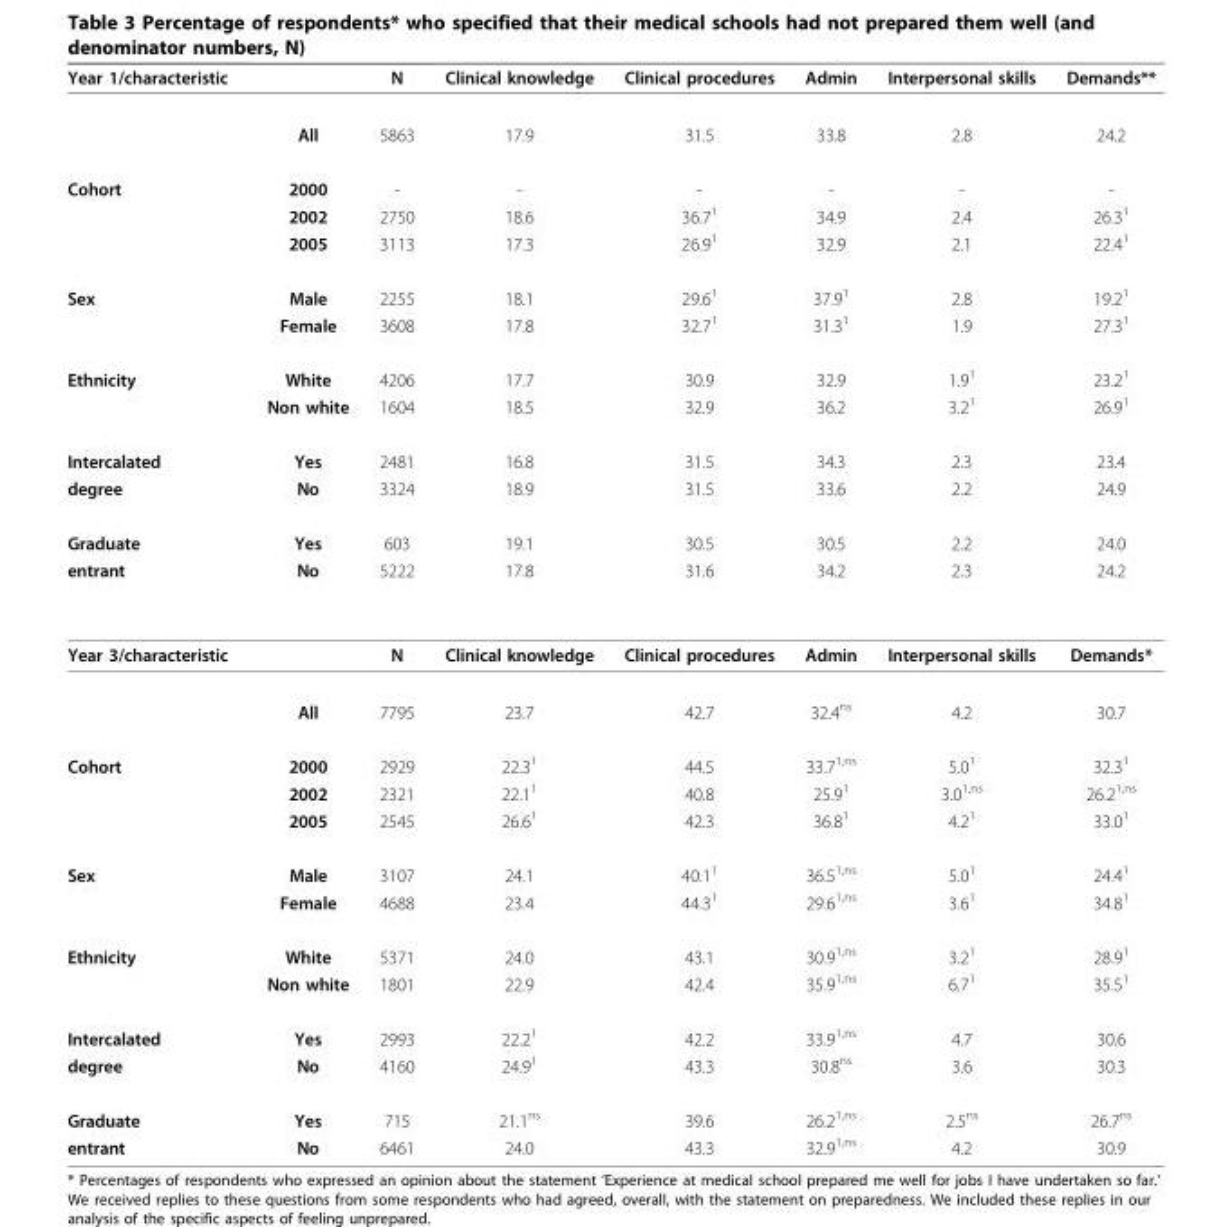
<table><thead><tr><td>Year 1/characteristic</td><td></td><td>N</td><td>Clinical knowledge</td><td>Clinical procedures</td><td>Admin</td><td>Interpersonal skills</td><td>Demands**</td></tr></thead><tbody><tr><td></td><td>All</td><td>5863</td><td>17.9</td><td>31.5</td><td>33.8</td><td>2.8</td><td>24.2</td></tr><tr><td rowspan="3">Cohort</td><td>2000</td><td>-</td><td>-</td><td>-</td><td>-</td><td>-</td><td>-</td></tr><tr><td>2002</td><td>2750</td><td>18.6</td><td>36.7<sup>1</sup></td><td>34.9</td><td>2.4</td><td>26.3<sup>1</sup></td></tr><tr><td>2005</td><td>3113</td><td>17.3</td><td>26.9<sup>1</sup></td><td>32.9</td><td>2.1</td><td>22.4<sup>1</sup></td></tr><tr><td rowspan="2">Sex</td><td>Male</td><td>2255</td><td>18.1</td><td>29.6<sup>1</sup></td><td>37.9<sup>1</sup></td><td>2.8</td><td>19.2<sup>1</sup></td></tr><tr><td>Female</td><td>3608</td><td>17.8</td><td>32.7<sup>1</sup></td><td>31.3<sup>1</sup></td><td>1.9</td><td>27.3<sup>1</sup></td></tr><tr><td rowspan="2">Ethnicity</td><td>White</td><td>4206</td><td>17.7</td><td>30.9</td><td>32.9</td><td>1.9<sup>1</sup></td><td>23.2<sup>1</sup></td></tr><tr><td>Non white</td><td>1604</td><td>18.5</td><td>32.9</td><td>36.2</td><td>3.2<sup>1</sup></td><td>26.9<sup>1</sup></td></tr><tr><td>Intercalated</td><td>Yes</td><td>2481</td><td>16.8</td><td>31.5</td><td>34.3</td><td>2.3</td><td>23.4</td></tr><tr><td>degree</td><td>No</td><td>3324</td><td>18.9</td><td>31.5</td><td>33.6</td><td>2.2</td><td>24.9</td></tr><tr><td>Graduate</td><td>Yes</td><td>603</td><td>19.1</td><td>30.5</td><td>30.5</td><td>2.2</td><td>24.0</td></tr><tr><td>entrant</td><td>No</td><td>5222</td><td>17.8</td><td>31.6</td><td>34.2</td><td>2.3</td><td>24.2</td></tr><tr><td rowspan="2">Year 3/characteristic</td><td></td><td>N</td><td>Clinical knowledge</td><td>Clinical procedures</td><td>Admin</td><td>Interpersonal skills</td><td>Demands*</td></tr><tr><td>All</td><td>7795</td><td>23.7</td><td>42.7</td><td>32.4<sup>ns</sup></td><td>4.2</td><td>30.7</td></tr><tr><td rowspan="3">Cohort</td><td>2000</td><td>2929</td><td>22.3<sup>1</sup></td><td>44.5</td><td>33.7<sup>1,ns</sup></td><td>5.0<sup>1</sup></td><td>32.3<sup>1</sup></td></tr><tr><td>2002</td><td>2321</td><td>22.1<sup>1</sup></td><td>40.8</td><td>25.9<sup>1</sup></td><td>3.0<sup>1,ns</sup></td><td>26.2<sup>1,ns</sup></td></tr><tr><td>2005</td><td>2545</td><td>26.6<sup>1</sup></td><td>42.3</td><td>36.8<sup>1</sup></td><td>4.2<sup>1</sup></td><td>33.0<sup>1</sup></td></tr><tr><td rowspan="2">Sex</td><td>Male</td><td>3107</td><td>24.1</td><td>40.1<sup>1</sup></td><td>36.5<sup>1,ns</sup></td><td>5.0<sup>1</sup></td><td>24.4<sup>1</sup></td></tr><tr><td>Female</td><td>4688</td><td>23.4</td><td>44.3<sup>1</sup></td><td>29.6<sup>1,ns</sup></td><td>3.6<sup>1</sup></td><td>34.8<sup>1</sup></td></tr><tr><td rowspan="2">Ethnicity</td><td>White</td><td>5371</td><td>24.0</td><td>43.1</td><td>30.9<sup>1,ns</sup></td><td>3.2<sup>1</sup></td><td>28.9<sup>1</sup></td></tr><tr><td>Non white</td><td>1801</td><td>22.9</td><td>42.4</td><td>35.9<sup>1,ns</sup></td><td>6.7<sup>1</sup></td><td>35.5<sup>1</sup></td></tr><tr><td>Intercalated</td><td>Yes</td><td>2993</td><td>22.2<sup>1</sup></td><td>42.2</td><td>33.9<sup>1,ns</sup></td><td>4.7</td><td>30.6</td></tr><tr><td>degree</td><td>No</td><td>4160</td><td>24.9<sup>1</sup></td><td>43.3</td><td>30.8<sup>ns</sup></td><td>3.6</td><td>30.3</td></tr><tr><td>Graduate</td><td>Yes</td><td>715</td><td>21.1<sup>ns</sup></td><td>39.6</td><td>26.2<sup>1,ns</sup></td><td>2.5<sup>ns</sup></td><td>26.7<sup>ns</sup></td></tr><tr><td>entrant</td><td>No</td><td>6461</td><td>24.0</td><td>43.3</td><td>32.9<sup>1,ns</sup></td><td>4.2</td><td>30.9</td></tr></tbody></table>